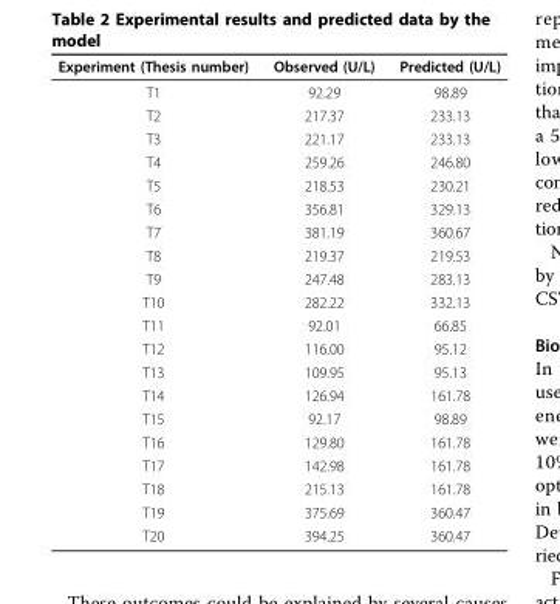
<table><thead><tr><td>Experiment (Thesis number)</td><td>Observed (U/L)</td><td>Predicted (U/L)</td></tr></thead><tbody><tr><td>T1</td><td>92.29</td><td>98.89</td></tr><tr><td>T2</td><td>217.37</td><td>233.13</td></tr><tr><td>T3</td><td>221.17</td><td>233.13</td></tr><tr><td>T4</td><td>259.26</td><td>246.80</td></tr><tr><td>T5</td><td>218.53</td><td>230.21</td></tr><tr><td>T6</td><td>356.81</td><td>329.13</td></tr><tr><td>T7</td><td>381.19</td><td>360.67</td></tr><tr><td>T8</td><td>219.37</td><td>219.53</td></tr><tr><td>T9</td><td>247.48</td><td>283.13</td></tr><tr><td>T10</td><td>282.22</td><td>332.13</td></tr><tr><td>T11</td><td>92.01</td><td>66.85</td></tr><tr><td>T12</td><td>116.00</td><td>95.12</td></tr><tr><td>T13</td><td>109.95</td><td>95.13</td></tr><tr><td>T14</td><td>126.94</td><td>161.78</td></tr><tr><td>T15</td><td>92.17</td><td>98.89</td></tr><tr><td>T16</td><td>129.80</td><td>161.78</td></tr><tr><td>T17</td><td>142.98</td><td>161.78</td></tr><tr><td>T18</td><td>215.13</td><td>161.78</td></tr><tr><td>T19</td><td>375.69</td><td>360.47</td></tr><tr><td>T20</td><td>394.25</td><td>360.47</td></tr></tbody></table>